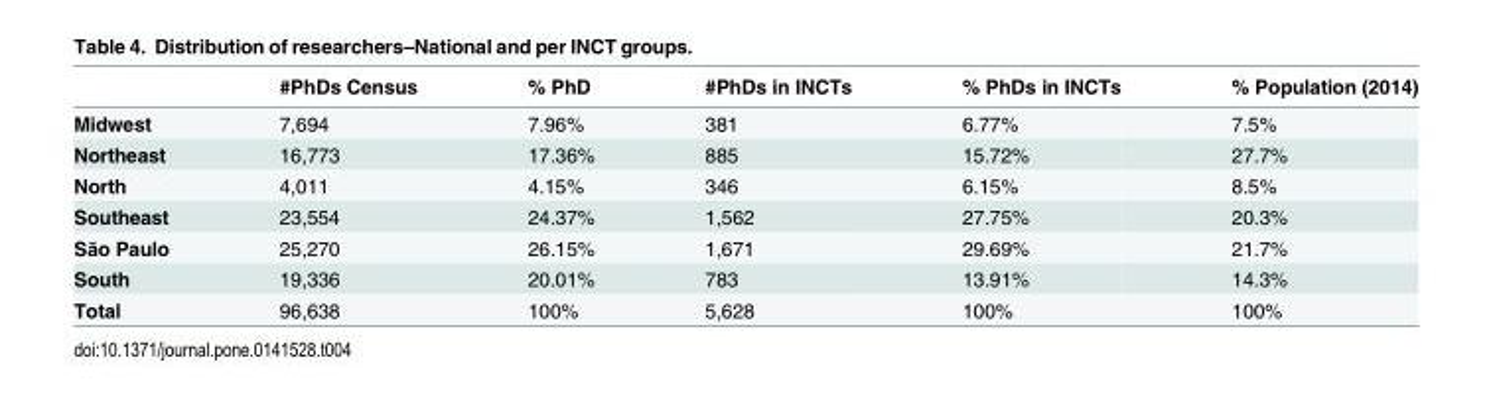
<table><thead><tr><td></td><td>#PhDs Census</td><td>% PhD</td><td>#PhDs in INCTs</td><td>% PhDs in INCTs</td><td>% Population (2014)</td></tr></thead><tbody><tr><td>Midwest</td><td>7,694</td><td>7.96%</td><td>381</td><td>6.77%</td><td>7.5%</td></tr><tr><td>Northeast</td><td>16,773</td><td>17.36%</td><td>885</td><td>15.72%</td><td>27.7%</td></tr><tr><td>North</td><td>4,011</td><td>4.15%</td><td>346</td><td>6.15%</td><td>8.5%</td></tr><tr><td>Southeast</td><td>23,554</td><td>24.37%</td><td>1,562</td><td>27.75%</td><td>20.3%</td></tr><tr><td>São Paulo</td><td>25,270</td><td>26.15%</td><td>1,671</td><td>29.69%</td><td>21.7%</td></tr><tr><td>South</td><td>19,336</td><td>20.01%</td><td>783</td><td>13.91%</td><td>14.3%</td></tr><tr><td>Total</td><td>96,638</td><td>100%</td><td>5,628</td><td>100%</td><td>100%</td></tr></tbody></table>